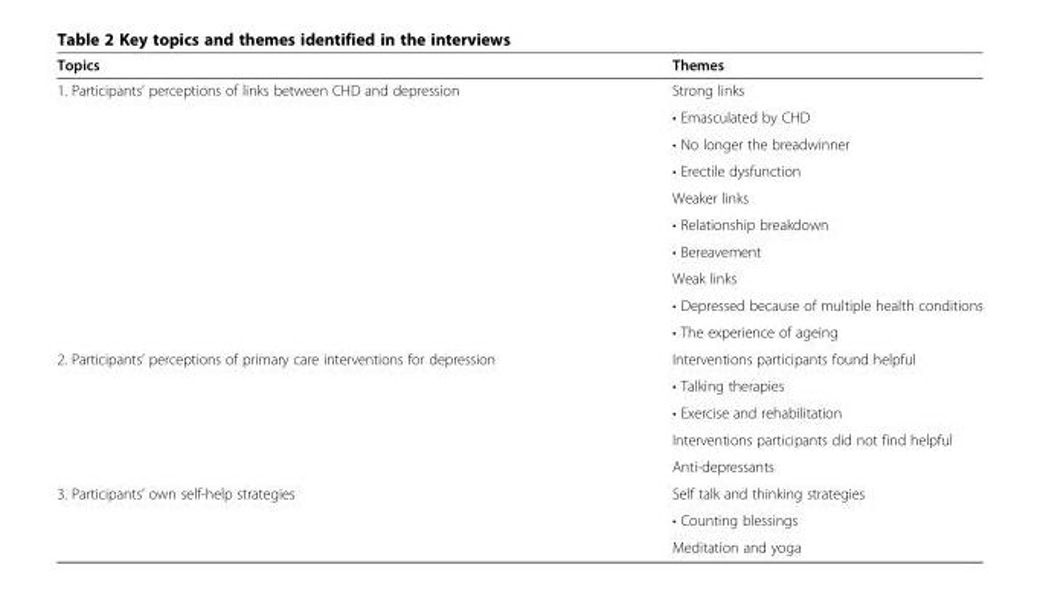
<table><thead><tr><td>Topics</td><td>Themes</td></tr></thead><tbody><tr><td rowspan="10">1. Participants’ perceptions of links between CHD and depression</td><td>Strong links</td></tr><tr><td>• Emasculated by CHD</td></tr><tr><td>• No longer the breadwinner</td></tr><tr><td>• Erectile dysfunction</td></tr><tr><td>Weaker links</td></tr><tr><td>• Relationship breakdown</td></tr><tr><td>• Bereavement</td></tr><tr><td>Weak links</td></tr><tr><td>• Depressed because of multiple health conditions</td></tr><tr><td>• The experience of ageing</td></tr><tr><td rowspan="5">2. Participants’ perceptions of primary care interventions for depression</td><td>Interventions participants found helpful</td></tr><tr><td>• Talking therapies</td></tr><tr><td>• Exercise and rehabilitation</td></tr><tr><td>Interventions participants did not find helpful</td></tr><tr><td>Anti-depressants</td></tr><tr><td rowspan="3">3. Participants’ own self-help strategies</td><td>Self talk and thinking strategies</td></tr><tr><td>• Counting blessings</td></tr><tr><td>Meditation and yoga</td></tr></tbody></table>